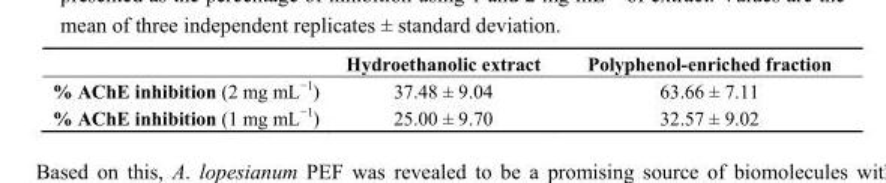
<table><thead><tr><td></td><td>Hydroethanolic extract</td><td>Polyphenol-enriched fraction</td></tr></thead><tbody><tr><td>% AChE inhibition (2 mg mL<sup>−1</sup>)</td><td>37.48 ± 9.04</td><td>63.66 ± 7.11</td></tr><tr><td>% AChE inhibition (1 mg mL<sup>−1</sup>)</td><td>25.00 ± 9.70</td><td>32.57 ± 9.02</td></tr></tbody></table>